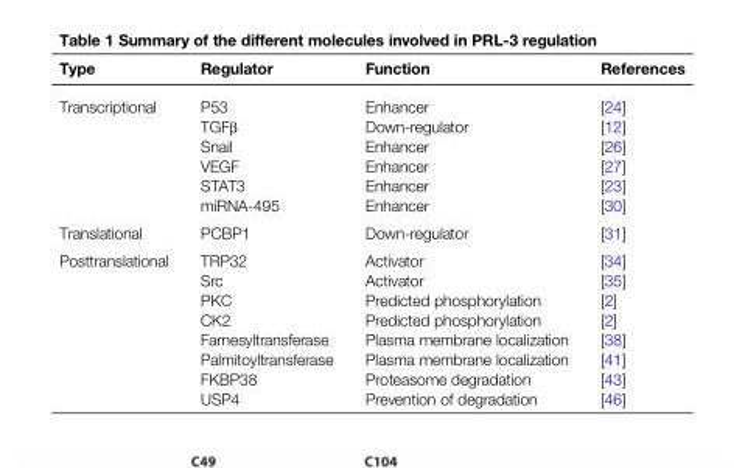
<table><thead><tr><td>Type</td><td>Regulator</td><td>Function</td><td>References</td></tr></thead><tbody><tr><td rowspan="6">Transcriptional</td><td>P53</td><td>Enhancer</td><td>[24]</td></tr><tr><td>TGFβ</td><td>Down-regulator</td><td>[12]</td></tr><tr><td>Snail</td><td>Enhancer</td><td>[26]</td></tr><tr><td>VEGF</td><td>Enhancer</td><td>[27]</td></tr><tr><td>STAT3</td><td>Enhancer</td><td>[23]</td></tr><tr><td>miRNA-495</td><td>Enhancer</td><td>[30]</td></tr><tr><td>Translational</td><td>PCBP1</td><td>Down-regulator</td><td>[31]</td></tr><tr><td rowspan="8">Posttranslational</td><td>TRP32</td><td>Activator</td><td>[34]</td></tr><tr><td>Src</td><td>Activator</td><td>[35]</td></tr><tr><td>PKC</td><td>Predicted phosphorylation</td><td>[2]</td></tr><tr><td>CK2</td><td>Predicted phosphorylation</td><td>[2]</td></tr><tr><td>Farnesyltransferase</td><td>Plasma membrane localization</td><td>[38]</td></tr><tr><td>Palmitoyltransferase</td><td>Plasma membrane localization</td><td>[41]</td></tr><tr><td>FKBP38</td><td>Proteasome degradation</td><td>[43]</td></tr><tr><td>USP4</td><td>Prevention of degradation</td><td>[46]</td></tr></tbody></table>